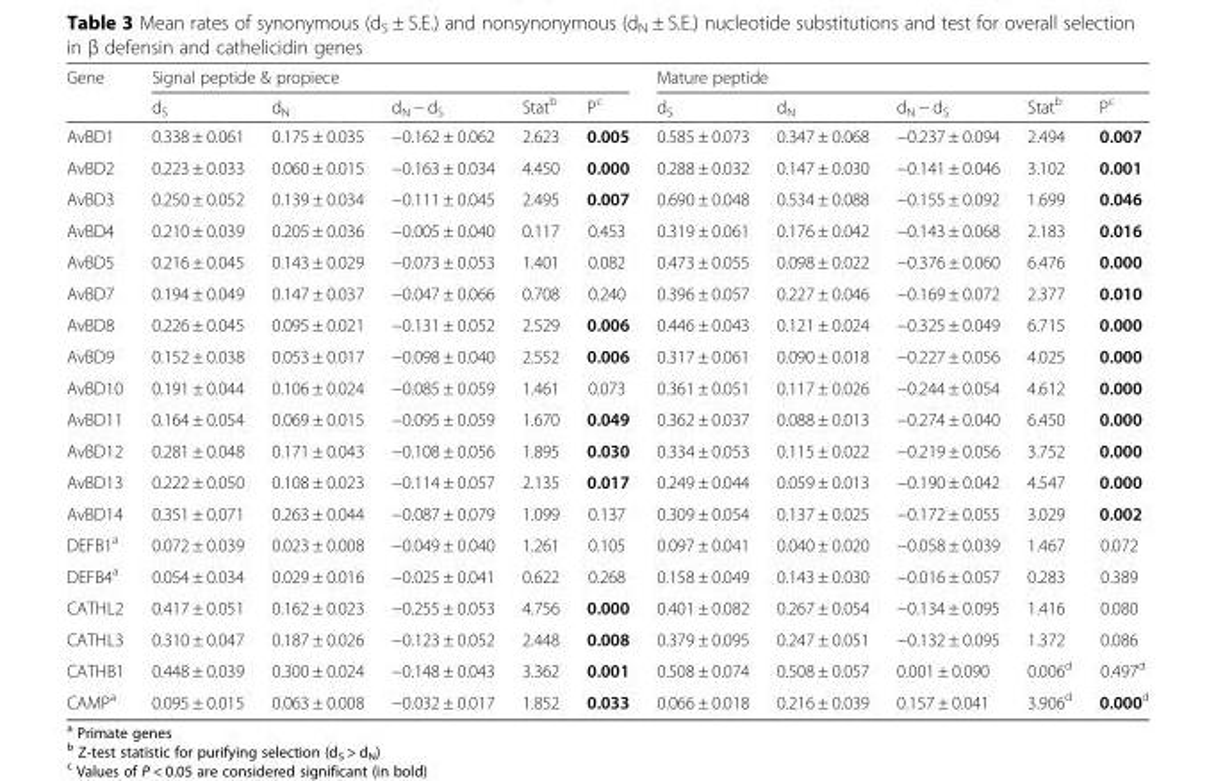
<table><thead><tr><td rowspan="2">Gene</td><td colspan="5">Signal peptide &amp; propiece</td><td colspan="5">Mature peptide</td></tr><tr><td>d<sub>S</sub></td><td>d<sub>N</sub></td><td>d<sub>N</sub> − d<sub>S</sub></td><td>Stat<sup>b</sup></td><td>P<sup>c</sup></td><td>d<sub>S</sub></td><td>d<sub>N</sub></td><td>d<sub>N</sub> − d<sub>S</sub></td><td>Stat<sup>b</sup></td><td>P<sup>c</sup></td></tr></thead><tbody><tr><td>AvBD1</td><td>0.338 ± 0.061</td><td>0.175 ± 0.035</td><td>−0.162 ± 0.062</td><td>2.623</td><td>0.005</td><td>0.585 ± 0.073</td><td>0.347 ± 0.068</td><td>−0.237 ± 0.094</td><td>2.494</td><td>0.007</td></tr><tr><td>AvBD2</td><td>0.223 ± 0.033</td><td>0.060 ± 0.015</td><td>−0.163 ± 0.034</td><td>4.450</td><td>0.000</td><td>0.288 ± 0.032</td><td>0.147 ± 0.030</td><td>−0.141 ± 0.046</td><td>3.102</td><td>0.001</td></tr><tr><td>AvBD3</td><td>0.250 ± 0.052</td><td>0.139 ± 0.034</td><td>−0.111 ± 0.045</td><td>2.495</td><td>0.007</td><td>0.690 ± 0.048</td><td>0.534 ± 0.088</td><td>−0.155 ± 0.092</td><td>1.699</td><td>0.046</td></tr><tr><td>AvBD4</td><td>0.210 ± 0.039</td><td>0.205 ± 0.036</td><td>−0.005 ± 0.040</td><td>0.117</td><td>0.453</td><td>0.319 ± 0.061</td><td>0.176 ± 0.042</td><td>−0.143 ± 0.068</td><td>2.183</td><td>0.016</td></tr><tr><td>AvBD5</td><td>0.216 ± 0.045</td><td>0.143 ± 0.029</td><td>−0.073 ± 0.053</td><td>1.401</td><td>0.082</td><td>0.473 ± 0.055</td><td>0.098 ± 0.022</td><td>−0.376 ± 0.060</td><td>6.476</td><td>0.000</td></tr><tr><td>AvBD7</td><td>0.194 ± 0.049</td><td>0.147 ± 0.037</td><td>−0.047 ± 0.066</td><td>0.708</td><td>0.240</td><td>0.396 ± 0.057</td><td>0.227 ± 0.046</td><td>−0.169 ± 0.072</td><td>2.377</td><td>0.010</td></tr><tr><td>AvBD8</td><td>0.226 ± 0.045</td><td>0.095 ± 0.021</td><td>−0.131 ± 0.052</td><td>2.529</td><td>0.006</td><td>0.446 ± 0.043</td><td>0.121 ± 0.024</td><td>−0.325 ± 0.049</td><td>6.715</td><td>0.000</td></tr><tr><td>AvBD9</td><td>0.152 ± 0.038</td><td>0.053 ± 0.017</td><td>−0.098 ± 0.040</td><td>2.552</td><td>0.006</td><td>0.317 ± 0.061</td><td>0.090 ± 0.018</td><td>−0.227 ± 0.056</td><td>4.025</td><td>0.000</td></tr><tr><td>AvBD10</td><td>0.191 ± 0.044</td><td>0.106 ± 0.024</td><td>−0.085 ± 0.059</td><td>1.461</td><td>0.073</td><td>0.361 ± 0.051</td><td>0.117 ± 0.026</td><td>−0.244 ± 0.054</td><td>4.612</td><td>0.000</td></tr><tr><td>AvBD11</td><td>0.164 ± 0.054</td><td>0.069 ± 0.015</td><td>−0.095 ± 0.059</td><td>1.670</td><td>0.049</td><td>0.362 ± 0.037</td><td>0.088 ± 0.013</td><td>−0.274 ± 0.040</td><td>6.450</td><td>0.000</td></tr><tr><td>AvBD12</td><td>0.281 ± 0.048</td><td>0.171 ± 0.043</td><td>−0.108 ± 0.056</td><td>1.895</td><td>0.030</td><td>0.334 ± 0.053</td><td>0.115 ± 0.022</td><td>−0.219 ± 0.056</td><td>3.752</td><td>0.000</td></tr><tr><td>AvBD13</td><td>0.222 ± 0.050</td><td>0.108 ± 0.023</td><td>−0.114 ± 0.057</td><td>2.135</td><td>0.017</td><td>0.249 ± 0.044</td><td>0.059 ± 0.013</td><td>−0.190 ± 0.042</td><td>4.547</td><td>0.000</td></tr><tr><td>AvBD14</td><td>0.351 ± 0.071</td><td>0.263 ± 0.044</td><td>−0.087 ± 0.079</td><td>1.099</td><td>0.137</td><td>0.309 ± 0.054</td><td>0.137 ± 0.025</td><td>−0.172 ± 0.055</td><td>3.029</td><td>0.002</td></tr><tr><td>DEFB1<sup>a</sup></td><td>0.072 ± 0.039</td><td>0.023 ± 0.008</td><td>−0.049 ± 0.040</td><td>1.261</td><td>0.105</td><td>0.097 ± 0.041</td><td>0.040 ± 0.020</td><td>−0.058 ± 0.039</td><td>1.467</td><td>0.072</td></tr><tr><td>DEFB4<sup>a</sup></td><td>0.054 ± 0.034</td><td>0.029 ± 0.016</td><td>−0.025 ± 0.041</td><td>0.622</td><td>0.268</td><td>0.158 ± 0.049</td><td>0.143 ± 0.030</td><td>−0.016 ± 0.057</td><td>0.283</td><td>0.389</td></tr><tr><td>CATHL2</td><td>0.417 ± 0.051</td><td>0.162 ± 0.023</td><td>−0.255 ± 0.053</td><td>4.756</td><td>0.000</td><td>0.401 ± 0.082</td><td>0.267 ± 0.054</td><td>−0.134 ± 0.095</td><td>1.416</td><td>0.080</td></tr><tr><td>CATHL3</td><td>0.310 ± 0.047</td><td>0.187 ± 0.026</td><td>−0.123 ± 0.052</td><td>2.448</td><td>0.008</td><td>0.379 ± 0.095</td><td>0.247 ± 0.051</td><td>−0.132 ± 0.095</td><td>1.372</td><td>0.086</td></tr><tr><td>CATHB1</td><td>0.448 ± 0.039</td><td>0.300 ± 0.024</td><td>−0.148 ± 0.043</td><td>3.362</td><td>0.001</td><td>0.508 ± 0.074</td><td>0.508 ± 0.057</td><td>0.001 ± 0.090</td><td>0.006<sup>d</sup></td><td>0.497<sup>d</sup></td></tr><tr><td>CAMP<sup>a</sup></td><td>0.095 ± 0.015</td><td>0.063 ± 0.008</td><td>−0.032 ± 0.017</td><td>1.852</td><td>0.033</td><td>0.066 ± 0.018</td><td>0.216 ± 0.039</td><td>0.157 ± 0.041</td><td>3.906<sup>d</sup></td><td>0.000<sup>d</sup></td></tr></tbody></table>